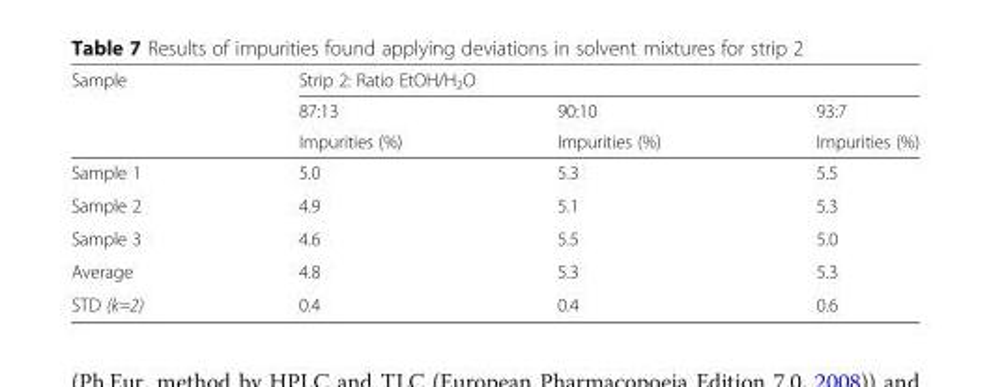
<table><thead><tr><td rowspan="3">Sample</td><td colspan="3">Strip 2: Ratio EtOH/H<sub>2</sub>O</td></tr><tr><td rowspan="2">87:13 Impurities (%)</td><td rowspan="2">90:10 Impurities (%)</td><td rowspan="2">93:7 Impurities (%)</td></tr><tr></tr></thead><tbody><tr><td>Sample 1</td><td>5.0</td><td>5.3</td><td>5.5</td></tr><tr><td>Sample 2</td><td>4.9</td><td>5.1</td><td>5.3</td></tr><tr><td>Sample 3</td><td>4.6</td><td>5.5</td><td>5.0</td></tr><tr><td>Average</td><td>4.8</td><td>5.3</td><td>5.3</td></tr><tr><td>STD (k=2)</td><td>0.4</td><td>0.4</td><td>0.6</td></tr></tbody></table>